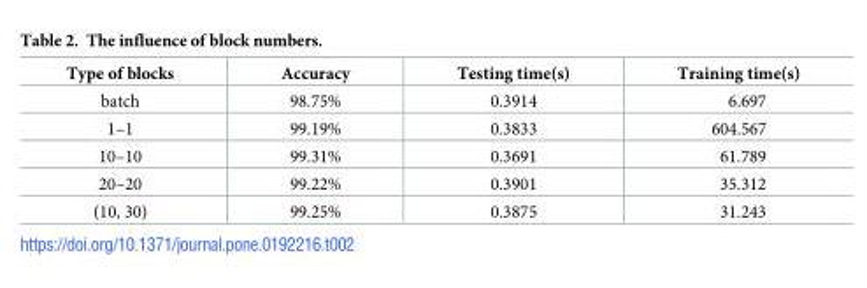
<table><thead><tr><td>Type of blocks</td><td>Accuracy</td><td>Testing time(s)</td><td>Training time(s)</td></tr></thead><tbody><tr><td>batch</td><td>98.75%</td><td>0.3914</td><td>6.697</td></tr><tr><td>1–1</td><td>99.19%</td><td>0.3833</td><td>604.567</td></tr><tr><td>10–10</td><td>99.31%</td><td>0.3691</td><td>61.789</td></tr><tr><td>20–20</td><td>99.22%</td><td>0.3901</td><td>35.312</td></tr><tr><td>(10, 30)</td><td>99.25%</td><td>0.3875</td><td>31.243</td></tr></tbody></table>